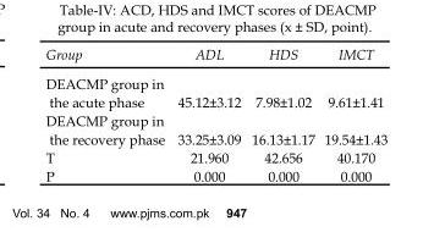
<table><thead><tr><td>Group</td><td>ADL</td><td>HDS</td><td>IMCT</td></tr></thead><tbody><tr><td>DEACMP group in the acute phase</td><td>45.12±3.12</td><td>7.98±1.02</td><td>9.61±1.41</td></tr><tr><td>DEACMP group in the recovery phase</td><td>33.25±3.09</td><td>16.13±1.17</td><td>19.54±1.43</td></tr><tr><td>T</td><td>21.960</td><td>42.656</td><td>40.170</td></tr><tr><td>P</td><td>0.000</td><td>0.000</td><td>0.000</td></tr></tbody></table>